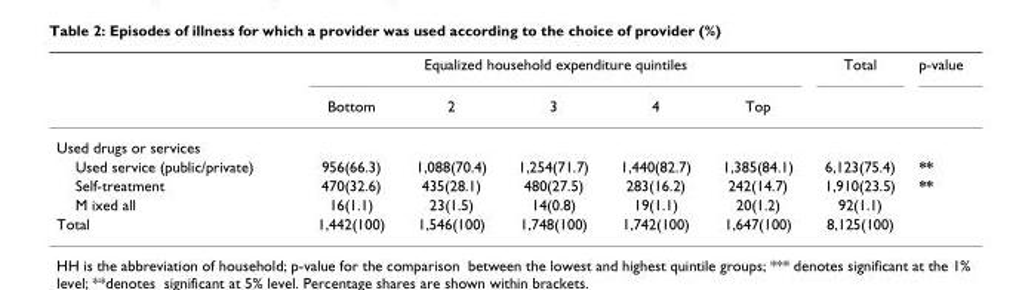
<table><thead><tr><td rowspan="2"></td><td colspan="5">Equalized household expenditure quintiles</td><td rowspan="2">Total</td><td rowspan="2">p-value</td></tr><tr><td>Bottom</td><td>2</td><td>3</td><td>4</td><td>Top</td></tr></thead><tbody><tr><td colspan="8">Used drugs or services</td></tr><tr><td>Used service (public/private)</td><td>956(66.3)</td><td>1,088(70.4)</td><td>1,254(71.7)</td><td>1,440(82.7)</td><td>1,385(84.1)</td><td>6,123(75.4)</td><td>**</td></tr><tr><td>Self-treatment</td><td>470(32.6)</td><td>435(28.1)</td><td>480(27.5)</td><td>283(16.2)</td><td>242(14.7)</td><td>1,910(23.5)</td><td>**</td></tr><tr><td>M ixed all</td><td>16(1.1)</td><td>23(1.5)</td><td>14(0.8)</td><td>19(1.1)</td><td>20(1.2)</td><td>92(1.1)</td><td></td></tr><tr><td>Total</td><td>1,442(100)</td><td>1,546(100)</td><td>1,748(100)</td><td>1,742(100)</td><td>1,647(100)</td><td>8,125(100)</td><td></td></tr></tbody></table>